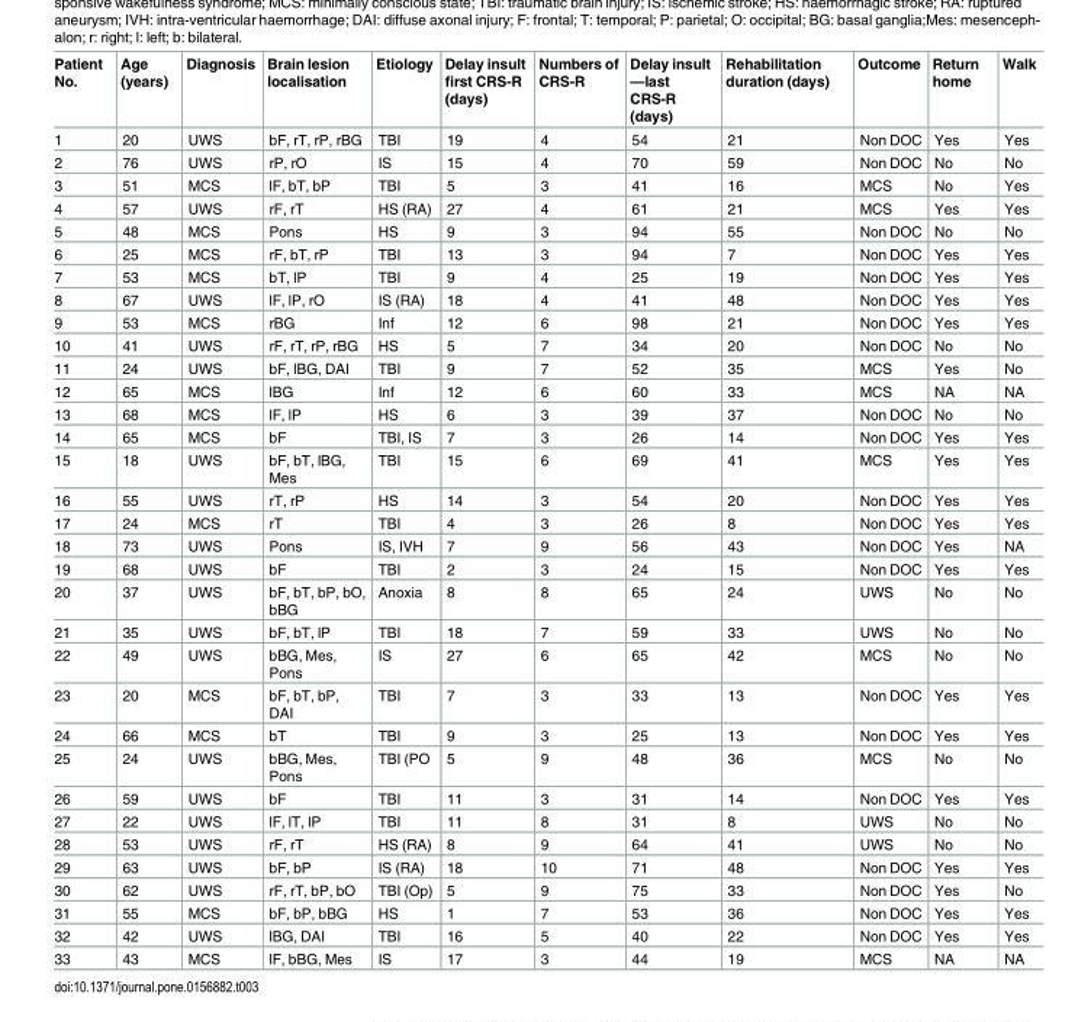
<table><thead><tr><td>Patient No.</td><td>Age (years)</td><td>Diagnosis</td><td>Brain lesion localisation</td><td>Etiology</td><td>Delay insult first CRS-R (days)</td><td>Numbers of CRS-R</td><td>Delay insult —last CRS-R (days)</td><td>Rehabilitation duration (days)</td><td>Outcome</td><td>Return home</td><td>Walk</td></tr></thead><tbody><tr><td>1</td><td>20</td><td>UWS</td><td>bF, rT, rP, rBG</td><td>TBI</td><td>19</td><td>4</td><td>54</td><td>21</td><td>Non DOC</td><td>Yes</td><td>Yes</td></tr><tr><td>2</td><td>76</td><td>UWS</td><td>rP, rO</td><td>IS</td><td>15</td><td>4</td><td>70</td><td>59</td><td>Non DOC</td><td>No</td><td>No</td></tr><tr><td>3</td><td>51</td><td>MCS</td><td>lF, bT, bP</td><td>TBI</td><td>5</td><td>3</td><td>41</td><td>16</td><td>MCS</td><td>No</td><td>Yes</td></tr><tr><td>4</td><td>57</td><td>UWS</td><td>rF, rT</td><td>HS (RA)</td><td>27</td><td>4</td><td>61</td><td>21</td><td>MCS</td><td>Yes</td><td>Yes</td></tr><tr><td>5</td><td>48</td><td>MCS</td><td>Pons</td><td>HS</td><td>9</td><td>3</td><td>94</td><td>55</td><td>Non DOC</td><td>No</td><td>No</td></tr><tr><td>6</td><td>25</td><td>MCS</td><td>rF, bT, rP</td><td>TBI</td><td>13</td><td>3</td><td>94</td><td>7</td><td>Non DOC</td><td>Yes</td><td>Yes</td></tr><tr><td>7</td><td>53</td><td>MCS</td><td>bT, lP</td><td>TBI</td><td>9</td><td>4</td><td>25</td><td>19</td><td>Non DOC</td><td>Yes</td><td>Yes</td></tr><tr><td>8</td><td>67</td><td>UWS</td><td>lF, lP, rO</td><td>IS (RA)</td><td>18</td><td>4</td><td>41</td><td>48</td><td>Non DOC</td><td>Yes</td><td>Yes</td></tr><tr><td>9</td><td>53</td><td>MCS</td><td>rBG</td><td>Inf</td><td>12</td><td>6</td><td>98</td><td>21</td><td>Non DOC</td><td>Yes</td><td>Yes</td></tr><tr><td>10</td><td>41</td><td>UWS</td><td>rF, rT, rP, rBG</td><td>HS</td><td>5</td><td>7</td><td>34</td><td>20</td><td>Non DOC</td><td>No</td><td>No</td></tr><tr><td>11</td><td>24</td><td>UWS</td><td>bF, lBG, DAI</td><td>TBI</td><td>9</td><td>7</td><td>52</td><td>35</td><td>MCS</td><td>Yes</td><td>No</td></tr><tr><td>12</td><td>65</td><td>MCS</td><td>lBG</td><td>Inf</td><td>12</td><td>6</td><td>60</td><td>33</td><td>MCS</td><td>NA</td><td>NA</td></tr><tr><td>13</td><td>68</td><td>MCS</td><td>lF, lP</td><td>HS</td><td>6</td><td>3</td><td>39</td><td>37</td><td>Non DOC</td><td>No</td><td>No</td></tr><tr><td>14</td><td>65</td><td>MCS</td><td>bF</td><td>TBI, IS</td><td>7</td><td>3</td><td>26</td><td>14</td><td>Non DOC</td><td>Yes</td><td>Yes</td></tr><tr><td>15</td><td>18</td><td>UWS</td><td>bF, bT, lBG, Mes</td><td>TBI</td><td>15</td><td>6</td><td>69</td><td>41</td><td>MCS</td><td>Yes</td><td>Yes</td></tr><tr><td>16</td><td>55</td><td>UWS</td><td>rT, rP</td><td>HS</td><td>14</td><td>3</td><td>54</td><td>20</td><td>Non DOC</td><td>Yes</td><td>Yes</td></tr><tr><td>17</td><td>24</td><td>MCS</td><td>rT</td><td>TBI</td><td>4</td><td>3</td><td>26</td><td>8</td><td>Non DOC</td><td>Yes</td><td>Yes</td></tr><tr><td>18</td><td>73</td><td>UWS</td><td>Pons</td><td>IS, IVH</td><td>7</td><td>9</td><td>56</td><td>43</td><td>Non DOC</td><td>Yes</td><td>NA</td></tr><tr><td>19</td><td>68</td><td>UWS</td><td>bF</td><td>TBI</td><td>2</td><td>3</td><td>24</td><td>15</td><td>Non DOC</td><td>Yes</td><td>Yes</td></tr><tr><td>20</td><td>37</td><td>UWS</td><td>bF, bT, bP, bO, bBG</td><td>Anoxia</td><td>8</td><td>8</td><td>65</td><td>24</td><td>UWS</td><td>No</td><td>No</td></tr><tr><td>21</td><td>35</td><td>UWS</td><td>bF, bT, lP</td><td>TBI</td><td>18</td><td>7</td><td>59</td><td>33</td><td>UWS</td><td>No</td><td>No</td></tr><tr><td>22</td><td>49</td><td>UWS</td><td>bBG, Mes, Pons</td><td>IS</td><td>27</td><td>6</td><td>65</td><td>42</td><td>MCS</td><td>No</td><td>No</td></tr><tr><td>23</td><td>20</td><td>MCS</td><td>bF, bT, bP, DAI</td><td>TBI</td><td>7</td><td>3</td><td>33</td><td>13</td><td>Non DOC</td><td>Yes</td><td>Yes</td></tr><tr><td>24</td><td>66</td><td>MCS</td><td>bT</td><td>TBI</td><td>9</td><td>3</td><td>25</td><td>13</td><td>Non DOC</td><td>Yes</td><td>Yes</td></tr><tr><td>25</td><td>24</td><td>UWS</td><td>bBG, Mes, Pons</td><td>TBI (PO</td><td>5</td><td>9</td><td>48</td><td>36</td><td>MCS</td><td>No</td><td>No</td></tr><tr><td>26</td><td>59</td><td>UWS</td><td>bF</td><td>TBI</td><td>11</td><td>3</td><td>31</td><td>14</td><td>Non DOC</td><td>Yes</td><td>Yes</td></tr><tr><td>27</td><td>22</td><td>UWS</td><td>lF, lT, lP</td><td>TBI</td><td>11</td><td>8</td><td>31</td><td>8</td><td>UWS</td><td>No</td><td>No</td></tr><tr><td>28</td><td>53</td><td>UWS</td><td>rF, rT</td><td>HS (RA)</td><td>8</td><td>9</td><td>64</td><td>41</td><td>UWS</td><td>No</td><td>No</td></tr><tr><td>29</td><td>63</td><td>UWS</td><td>bF, bP</td><td>IS (RA)</td><td>18</td><td>10</td><td>71</td><td>48</td><td>Non DOC</td><td>Yes</td><td>Yes</td></tr><tr><td>30</td><td>62</td><td>UWS</td><td>rF, rT, bP, bO</td><td>TBI (Op)</td><td>5</td><td>9</td><td>75</td><td>33</td><td>Non DOC</td><td>Yes</td><td>No</td></tr><tr><td>31</td><td>55</td><td>MCS</td><td>bF, bP, bBG</td><td>HS</td><td>1</td><td>7</td><td>53</td><td>36</td><td>Non DOC</td><td>Yes</td><td>Yes</td></tr><tr><td>32</td><td>42</td><td>UWS</td><td>lBG, DAI</td><td>TBI</td><td>16</td><td>5</td><td>40</td><td>22</td><td>Non DOC</td><td>Yes</td><td>Yes</td></tr><tr><td>33</td><td>43</td><td>MCS</td><td>lF, bBG, Mes</td><td>IS</td><td>17</td><td>3</td><td>44</td><td>19</td><td>MCS</td><td>NA</td><td>NA</td></tr></tbody></table>